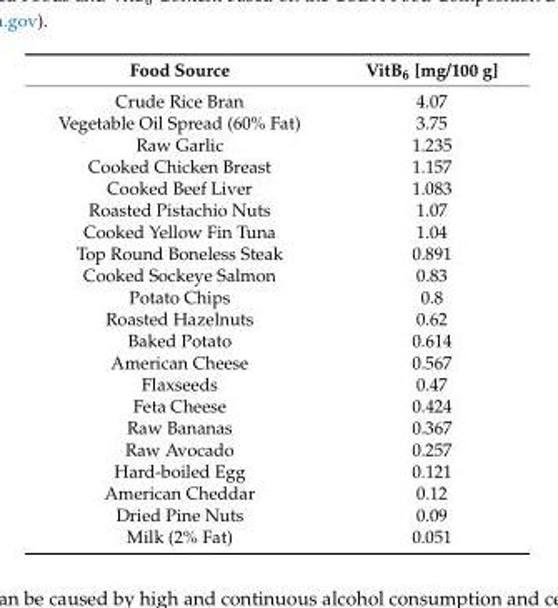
<table><thead><tr><td>Food Source</td><td>VitB<sub>6</sub> [mg/100 g]</td></tr></thead><tbody><tr><td>Crude Rice Bran</td><td>4.07</td></tr><tr><td>Vegetable Oil Spread (60% Fat)</td><td>3.75</td></tr><tr><td>Raw Garlic</td><td>1.235</td></tr><tr><td>Cooked Chicken Breast</td><td>1.157</td></tr><tr><td>Cooked Beef Liver</td><td>1.083</td></tr><tr><td>Roasted Pistachio Nuts</td><td>1.07</td></tr><tr><td>Cooked Yellow Fin Tuna</td><td>1.04</td></tr><tr><td>Top Round Boneless Steak</td><td>0.891</td></tr><tr><td>Cooked Sockeye Salmon</td><td>0.83</td></tr><tr><td>Potato Chips</td><td>0.8</td></tr><tr><td>Roasted Hazelnuts</td><td>0.62</td></tr><tr><td>Baked Potato</td><td>0.614</td></tr><tr><td>American Cheese</td><td>0.567</td></tr><tr><td>Flaxseeds</td><td>0.47</td></tr><tr><td>Feta Cheese</td><td>0.424</td></tr><tr><td>Raw Bananas</td><td>0.367</td></tr><tr><td>Raw Avocado</td><td>0.257</td></tr><tr><td>Hard-boiled Egg</td><td>0.121</td></tr><tr><td>American Cheddar</td><td>0.12</td></tr><tr><td>Dried Pine Nuts</td><td>0.09</td></tr><tr><td>Milk (2% Fat)</td><td>0.051</td></tr></tbody></table>